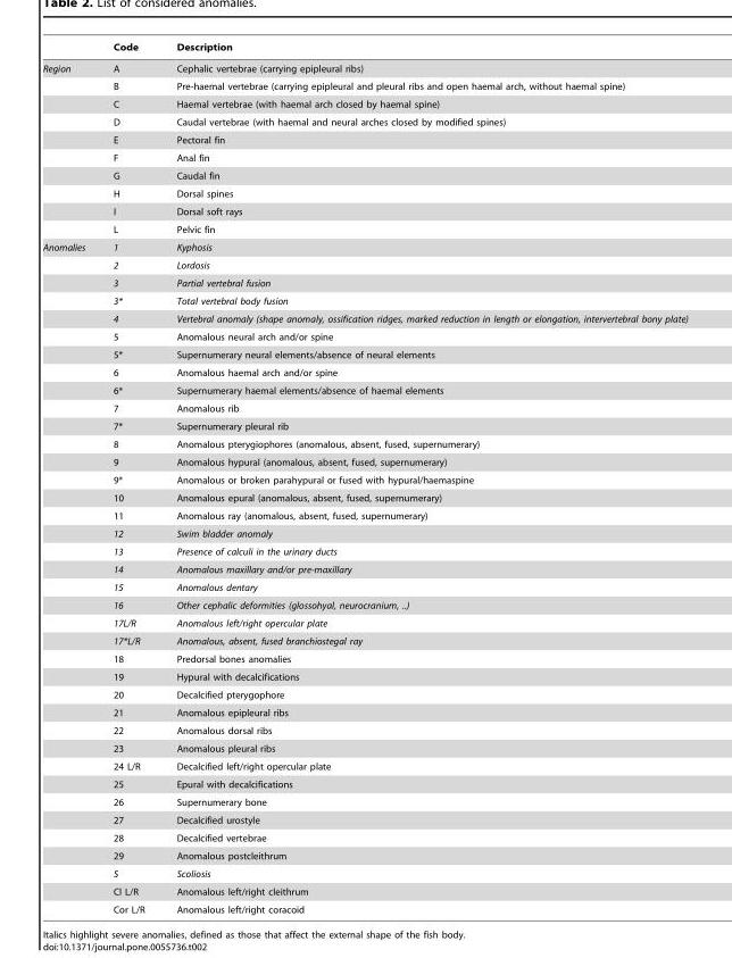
<table><thead><tr><td></td><td>Code</td><td>Description</td></tr></thead><tbody><tr><td rowspan="10">Region</td><td>A</td><td>Cephalic vertebrae (carrying epipleural ribs)</td></tr><tr><td>B</td><td>Pre-haemal vertebrae (carrying epipleural and pleural ribs and open haemal arch, without haemal spine)</td></tr><tr><td>C</td><td>Haemal vertebrae (with haemal arch closed by haemal spine)</td></tr><tr><td>D</td><td>Caudal vertebrae (with haemal and neural arches closed by modified spines)</td></tr><tr><td>E</td><td>Pectoral fin</td></tr><tr><td>F</td><td>Anal fin</td></tr><tr><td>G</td><td>Caudal fin</td></tr><tr><td>H</td><td>Dorsal spines</td></tr><tr><td>I</td><td>Dorsal soft rays</td></tr><tr><td>L</td><td>Pelvic fin</td></tr><tr><td rowspan="38">Anomalies</td><td>1</td><td>Kyphosis</td></tr><tr><td>2</td><td>Lordosis</td></tr><tr><td>3</td><td>Partial vertebral fusion</td></tr><tr><td>3*</td><td>Total vertebral body fusion</td></tr><tr><td>4</td><td>Vertebral anomaly (shape anomaly, ossification ridges, marked reduction in length or elongation, intervertebral bony plate)</td></tr><tr><td>5</td><td>Anomalous neural arch and/or spine</td></tr><tr><td>5*</td><td>Supernumerary neural elements/absence of neural elements</td></tr><tr><td>6</td><td>Anomalous haemal arch and/or spine</td></tr><tr><td>6*</td><td>Supernumerary haemal elements/absence of haemal elements</td></tr><tr><td>7</td><td>Anomalous rib</td></tr><tr><td>7*</td><td>Supernumerary pleural rib</td></tr><tr><td>8</td><td>Anomalous pterygiophores (anomalous, absent, fused, supernumerary)</td></tr><tr><td>9</td><td>Anomalous hypural (anomalous, absent, fused, supernumerary)</td></tr><tr><td>9*</td><td>Anomalous or broken parahypural or fused with hypural/haemaspine</td></tr><tr><td>10</td><td>Anomalous epural (anomalous, absent, fused, supernumerary)</td></tr><tr><td>11</td><td>Anomalous ray (anomalous, absent, fused, supernumerary)</td></tr><tr><td>12</td><td>Swim bladder anomaly</td></tr><tr><td>13</td><td>Presence of calculi in the urinary ducts</td></tr><tr><td>14</td><td>Anomalous maxillary and/or pre-maxillary</td></tr><tr><td>15</td><td>Anomalous dentary</td></tr><tr><td>16</td><td>Other cephalic deformities (glossohyal, neurocranium, ..)</td></tr><tr><td>17L/R</td><td>Anomalous left/right opercular plate</td></tr><tr><td>17*L/R</td><td>Anomalous, absent, fused branchiostegal ray</td></tr><tr><td>18</td><td>Predorsal bones anomalies</td></tr><tr><td>19</td><td>Hypural with decalcifications</td></tr><tr><td>20</td><td>Decalcified pterygophore</td></tr><tr><td>21</td><td>Anomalous epipleural ribs</td></tr><tr><td>22</td><td>Anomalous dorsal ribs</td></tr><tr><td>23</td><td>Anomalous pleural ribs</td></tr><tr><td>24 L/R</td><td>Decalcified left/right opercular plate</td></tr><tr><td>25</td><td>Epural with decalcifications</td></tr><tr><td>26</td><td>Supernumerary bone</td></tr><tr><td>27</td><td>Decalcified urostyle</td></tr><tr><td>28</td><td>Decalcified vertebrae</td></tr><tr><td>29</td><td>Anomalous postcleithrum</td></tr><tr><td>S</td><td>Scoliosis</td></tr><tr><td>Cl L/R</td><td>Anomalous left/right cleithrum</td></tr><tr><td>Cor L/R</td><td>Anomalous left/right coracoid</td></tr></tbody></table>